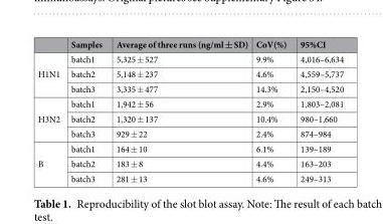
<table><thead><tr><td></td><td>Samples</td><td>Average of three runs (ng/ml ± SD)</td><td>CoV(%)</td><td>95%CI</td></tr></thead><tbody><tr><td rowspan="3">H1N1</td><td>batch1</td><td>5,325 ± 527</td><td>9.9%</td><td>4,016–6,634</td></tr><tr><td>batch2</td><td>5,148 ± 237</td><td>4.6%</td><td>4,559–5,737</td></tr><tr><td>batch3</td><td>3,335 ± 477</td><td>14.3%</td><td>2,150–4,520</td></tr><tr><td rowspan="3">H3N2</td><td>batch1</td><td>1,942 ± 56</td><td>2.9%</td><td>1,803–2,081</td></tr><tr><td>batch2</td><td>1,320 ± 137</td><td>10.4%</td><td>980–1,660</td></tr><tr><td>batch3</td><td>929 ± 22</td><td>2.4%</td><td>874–984</td></tr><tr><td rowspan="3">B</td><td>batch1</td><td>164 ± 10</td><td>6.1%</td><td>139–189</td></tr><tr><td>batch2</td><td>183 ± 8</td><td>4.4%</td><td>163–203</td></tr><tr><td>batch3</td><td>281 ± 13</td><td>4.6%</td><td>249–313</td></tr></tbody></table>